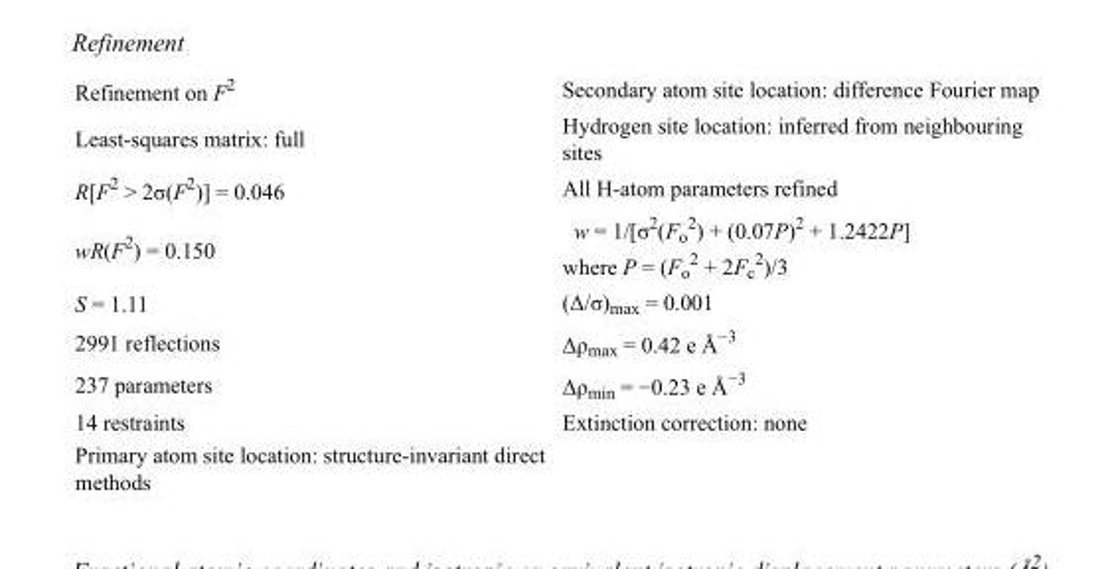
<table><tbody><tr><td>Refinement on F<sup>2</sup></td><td>Secondary atom site location: difference Fourier map</td></tr><tr><td>Least-squares matrix: full</td><td>Hydrogen site location: inferred from neighbouring sites</td></tr><tr><td>R[F<sup>2</sup> &gt; 2σ(F<sup>2</sup>)] = 0.046</td><td>All H-atom parameters refined</td></tr><tr><td>wR(F<sup>2</sup>) = 0.150</td><td>w = 1/[σ<sup>2</sup>(F<sub>o</sub> <sup>2</sup>) + (0.07P)<sup>2</sup> + 1.2422P] where P = (F<sub>o</sub> <sup>2</sup> + 2F<sub>c</sub> <sup>2</sup>)/3</td></tr><tr><td>S = 1.11</td><td>(Δ/σ)<sub>max</sub> = 0.001</td></tr><tr><td>2991 reflections</td><td>Δρ<sub>max</sub> = 0.42 e Å<sup>−3</sup></td></tr><tr><td>237 parameters</td><td>Δρ<sub>min</sub> = −0.23 e Å<sup>−3</sup></td></tr><tr><td>14 restraints</td><td>Extinction correction: none</td></tr><tr><td>Primary atom site location: structure-invariant direct methods</td><td></td></tr></tbody></table>